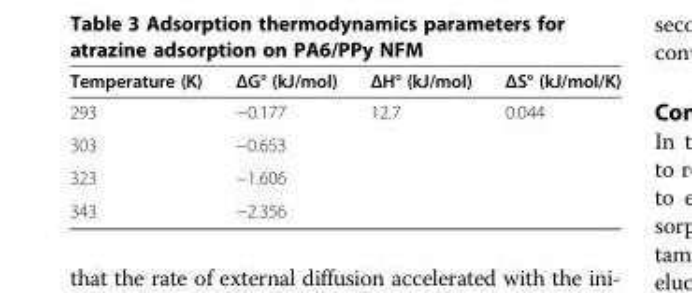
<table><thead><tr><td>Temperature (K)</td><td>ΔG° (kJ/mol)</td><td>ΔH° (kJ/mol)</td><td>ΔS° (kJ/mol/K)</td></tr></thead><tbody><tr><td>293</td><td>−0.177</td><td>12.7</td><td>0.044</td></tr><tr><td>303</td><td>−0.653</td><td></td><td></td></tr><tr><td>323</td><td>−1.606</td><td></td><td></td></tr><tr><td>343</td><td>−2.356</td><td></td><td></td></tr></tbody></table>